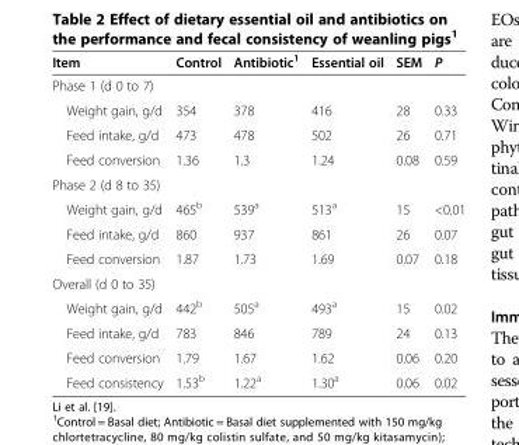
<table><thead><tr><td>Item</td><td>Control</td><td>Antibiotic<sup>1</sup></td><td>Essential oil</td><td>SEM</td><td>P</td></tr></thead><tbody><tr><td colspan="6">Phase 1 (d 0 to 7)</td></tr><tr><td>Weight gain, g/d</td><td>354</td><td>378</td><td>416</td><td>28</td><td>0.33</td></tr><tr><td>Feed intake, g/d</td><td>473</td><td>478</td><td>502</td><td>26</td><td>0.71</td></tr><tr><td>Feed conversion</td><td>1.36</td><td>1.3</td><td>1.24</td><td>0.08</td><td>0.59</td></tr><tr><td colspan="6">Phase 2 (d 8 to 35)</td></tr><tr><td>Weight gain, g/d</td><td>465<sup>b</sup></td><td>539<sup>a</sup></td><td>513<sup>a</sup></td><td>15</td><td>&lt;0.01</td></tr><tr><td>Feed intake, g/d</td><td>860</td><td>937</td><td>861</td><td>26</td><td>0.07</td></tr><tr><td>Feed conversion</td><td>1.87</td><td>1.73</td><td>1.69</td><td>0.07</td><td>0.18</td></tr><tr><td colspan="6">Overall (d 0 to 35)</td></tr><tr><td>Weight gain, g/d</td><td>442<sup>b</sup></td><td>505<sup>a</sup></td><td>493<sup>a</sup></td><td>15</td><td>0.02</td></tr><tr><td>Feed intake, g/d</td><td>783</td><td>846</td><td>789</td><td>24</td><td>0.13</td></tr><tr><td>Feed conversion</td><td>1.79</td><td>1.67</td><td>1.62</td><td>0.06</td><td>0.20</td></tr><tr><td>Feed consistency</td><td>1.53<sup>b</sup></td><td>1.22<sup>a</sup></td><td>1.30<sup>a</sup></td><td>0.06</td><td>0.02</td></tr></tbody></table>